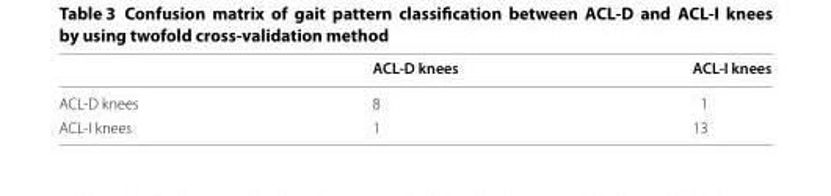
<table><thead><tr><td></td><td>ACL-D knees</td><td>ACL-I knees</td></tr></thead><tbody><tr><td>ACL-D knees</td><td>8</td><td>1</td></tr><tr><td>ACL-I knees</td><td>1</td><td>13</td></tr></tbody></table>